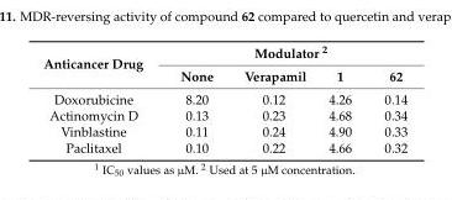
<table><thead><tr><td rowspan="2">Anticancer Drug</td><td colspan="4">Modulator <sup>2</sup></td></tr><tr><td>None</td><td>Verapamil</td><td>1</td><td>62</td></tr></thead><tbody><tr><td>Doxorubicine</td><td>8.20</td><td>0.12</td><td>4.26</td><td>0.14</td></tr><tr><td>Actinomycin D</td><td>0.13</td><td>0.23</td><td>4.68</td><td>0.34</td></tr><tr><td>Vinblastine</td><td>0.11</td><td>0.24</td><td>4.90</td><td>0.33</td></tr><tr><td>Paclitaxel</td><td>0.10</td><td>0.22</td><td>4.66</td><td>0.32</td></tr></tbody></table>